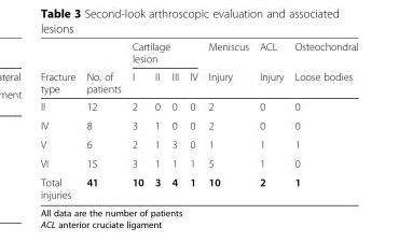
<table><thead><tr><td rowspan="2">Fracture type</td><td rowspan="2">No. of patients</td><td colspan="4">Cartilage lesion</td><td rowspan="2">Meniscus Injury</td><td rowspan="2">ACL Injury</td><td rowspan="2">Osteochondral Loose bodies</td></tr><tr><td>I</td><td>II</td><td>III</td><td>IV</td></tr></thead><tbody><tr><td>II</td><td>12</td><td>2</td><td>0</td><td>0</td><td>0</td><td>2</td><td>0</td><td>0</td></tr><tr><td>IV</td><td>8</td><td>3</td><td>1</td><td>0</td><td>0</td><td>2</td><td>0</td><td>0</td></tr><tr><td>V</td><td>6</td><td>2</td><td>1</td><td>3</td><td>0</td><td>1</td><td>1</td><td>1</td></tr><tr><td>VI</td><td>15</td><td>3</td><td>1</td><td>1</td><td>1</td><td>5</td><td>1</td><td>0</td></tr><tr><td>Total injuries</td><td>41</td><td>10</td><td>3</td><td>4</td><td>1</td><td>10</td><td>2</td><td>1</td></tr></tbody></table>